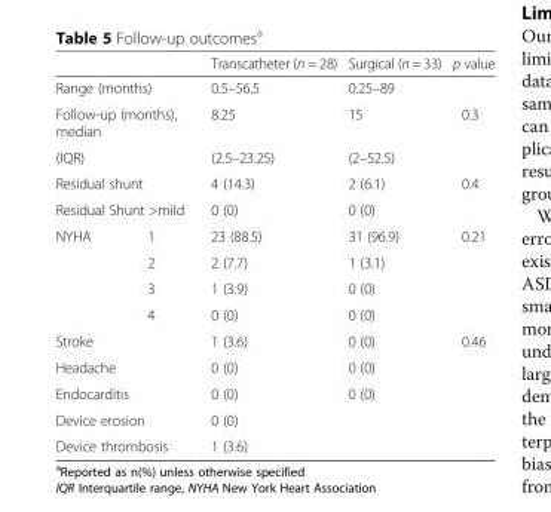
<table><thead><tr><td></td><td></td><td>Transcatheter (n = 28)</td><td>Surgical (n = 33)</td><td>p value</td></tr></thead><tbody><tr><td colspan="2">Range (months)</td><td>0.5–56.5</td><td>0.25–89</td><td></td></tr><tr><td colspan="2">Follow-up (months), median</td><td>8.25</td><td>15</td><td>0.3</td></tr><tr><td colspan="2">(IQR)</td><td>(2.5–23.25)</td><td>(2–52.5)</td><td></td></tr><tr><td colspan="2">Residual shunt</td><td>4 (14.3)</td><td>2 (6.1)</td><td>0.4</td></tr><tr><td colspan="2">Residual Shunt &gt;mild</td><td>0 (0)</td><td>0 (0)</td><td></td></tr><tr><td rowspan="4">NYHA</td><td>1</td><td>23 (88.5)</td><td>31 (96.9)</td><td>0.21</td></tr><tr><td>2</td><td>2 (7.7)</td><td>1 (3.1)</td><td></td></tr><tr><td>3</td><td>1 (3.9)</td><td>0 (0)</td><td></td></tr><tr><td>4</td><td>0 (0)</td><td>0 (0)</td><td></td></tr><tr><td colspan="2">Stroke</td><td>1 (3.6)</td><td>0 (0)</td><td>0.46</td></tr><tr><td colspan="2">Headache</td><td>0 (0)</td><td>0 (0)</td><td></td></tr><tr><td colspan="2">Endocarditis</td><td>0 (0)</td><td>0 (0)</td><td></td></tr><tr><td colspan="2">Device erosion</td><td>0 (0)</td><td></td><td></td></tr><tr><td colspan="2">Device thrombosis</td><td>1 (3.6)</td><td></td><td></td></tr></tbody></table>